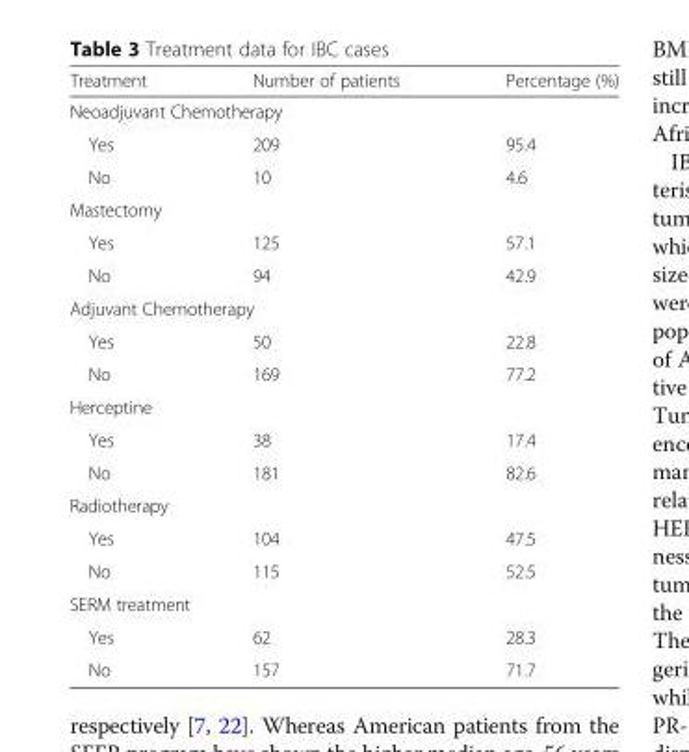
<table><thead><tr><td>Treatment</td><td>Number of patients</td><td>Percentage (%)</td></tr></thead><tbody><tr><td colspan="3">Neoadjuvant Chemotherapy</td></tr><tr><td>Yes</td><td>209</td><td>95.4</td></tr><tr><td>No</td><td>10</td><td>4.6</td></tr><tr><td colspan="3">Mastectomy</td></tr><tr><td>Yes</td><td>125</td><td>57.1</td></tr><tr><td>No</td><td>94</td><td>42.9</td></tr><tr><td colspan="3">Adjuvant Chemotherapy</td></tr><tr><td>Yes</td><td>50</td><td>22.8</td></tr><tr><td>No</td><td>169</td><td>77.2</td></tr><tr><td colspan="3">Herceptine</td></tr><tr><td>Yes</td><td>38</td><td>17.4</td></tr><tr><td>No</td><td>181</td><td>82.6</td></tr><tr><td colspan="3">Radiotherapy</td></tr><tr><td>Yes</td><td>104</td><td>47.5</td></tr><tr><td>No</td><td>115</td><td>52.5</td></tr><tr><td colspan="3">SERM treatment</td></tr><tr><td>Yes</td><td>62</td><td>28.3</td></tr><tr><td>No</td><td>157</td><td>71.7</td></tr></tbody></table>